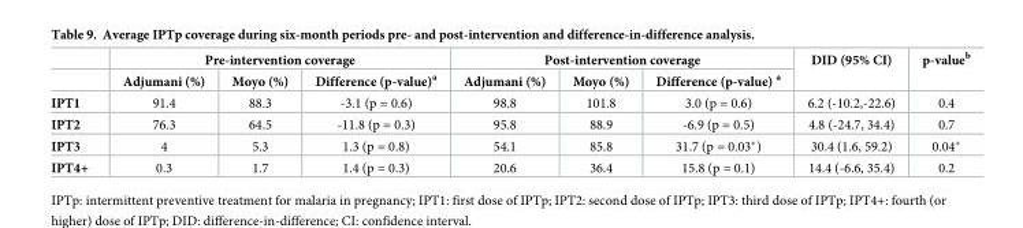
<table><thead><tr><td rowspan="2"></td><td colspan="3">Pre-intervention coverage</td><td colspan="3">Post-intervention coverage</td><td rowspan="2">DID (95% CI)</td><td rowspan="2">p-value<sup>b</sup></td></tr><tr><td>Adjumani (%)</td><td>Moyo (%)</td><td>Difference (p-value)<sup>a</sup></td><td>Adjumani (%)</td><td>Moyo (%)</td><td>Difference (p-value) <sup>a</sup></td></tr></thead><tbody><tr><td>IPT1</td><td>91.4</td><td>88.3</td><td>-3.1 (p = 0.6)</td><td>98.8</td><td>101.8</td><td>3.0 (p = 0.6)</td><td>6.2 (-10.2,-22.6)</td><td>0.4</td></tr><tr><td>IPT2</td><td>76.3</td><td>64.5</td><td>-11.8 (p = 0.3)</td><td>95.8</td><td>88.9</td><td>-6.9 (p = 0.5)</td><td>4.8 (-24.7, 34.4)</td><td>0.7</td></tr><tr><td>IPT3</td><td>4</td><td>5.3</td><td>1.3 (p = 0.8)</td><td>54.1</td><td>85.8</td><td>31.7 (p = 0.03*)</td><td>30.4 (1.6, 59.2)</td><td>0.04*</td></tr><tr><td>IPT4+</td><td>0.3</td><td>1.7</td><td>1.4 (p = 0.3)</td><td>20.6</td><td>36.4</td><td>15.8 (p = 0.1)</td><td>14.4 (-6.6, 35.4)</td><td>0.2</td></tr></tbody></table>